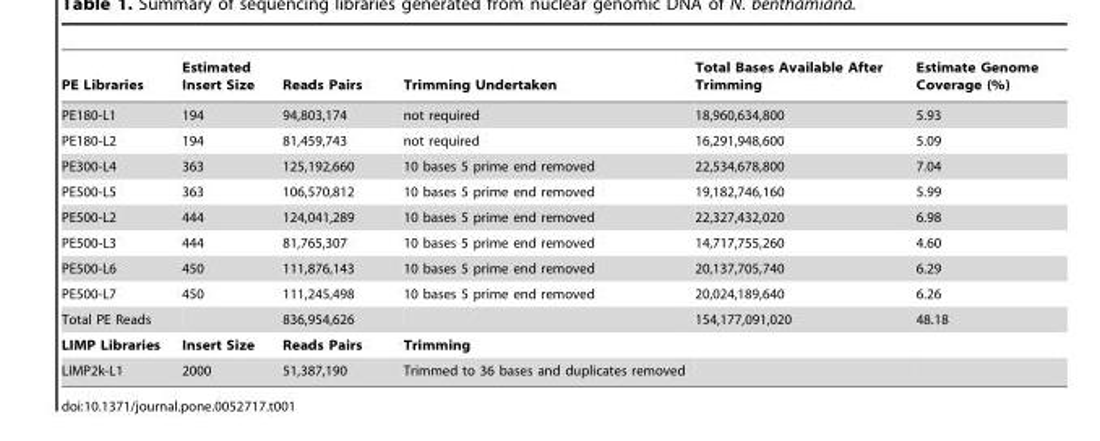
<table><thead><tr><td>PE Libraries</td><td>Estimated Insert Size</td><td>Reads Pairs</td><td>Trimming Undertaken</td><td>Total Bases Available After Trimming</td><td>Estimate Genome Coverage (%)</td></tr></thead><tbody><tr><td>PE180-L1</td><td>194</td><td>94,803,174</td><td>not required</td><td>18,960,634,800</td><td>5.93</td></tr><tr><td>PE180-L2</td><td>194</td><td>81,459,743</td><td>not required</td><td>16,291,948,600</td><td>5.09</td></tr><tr><td>PE300-L4</td><td>363</td><td>125,192,660</td><td>10 bases 5 prime end removed</td><td>22,534,678,800</td><td>7.04</td></tr><tr><td>PE500-L5</td><td>363</td><td>106,570,812</td><td>10 bases 5 prime end removed</td><td>19,182,746,160</td><td>5.99</td></tr><tr><td>PE500-L2</td><td>444</td><td>124,041,289</td><td>10 bases 5 prime end removed</td><td>22,327,432,020</td><td>6.98</td></tr><tr><td>PE500-L3</td><td>444</td><td>81,765,307</td><td>10 bases 5 prime end removed</td><td>14,717,755,260</td><td>4.60</td></tr><tr><td>PE500-L6</td><td>450</td><td>111,876,143</td><td>10 bases 5 prime end removed</td><td>20,137,705,740</td><td>6.29</td></tr><tr><td>PE500-L7</td><td>450</td><td>111,245,498</td><td>10 bases 5 prime end removed</td><td>20,024,189,640</td><td>6.26</td></tr><tr><td>Total PE Reads</td><td></td><td>836,954,626</td><td></td><td>154,177,091,020</td><td>48.18</td></tr><tr><td>LIMP Libraries</td><td>Insert Size</td><td>Reads Pairs</td><td>Trimming</td><td></td><td></td></tr><tr><td>LIMP2k-L1</td><td>2000</td><td>51,387,190</td><td>Trimmed to 36 bases and duplicates removed</td><td></td><td></td></tr></tbody></table>